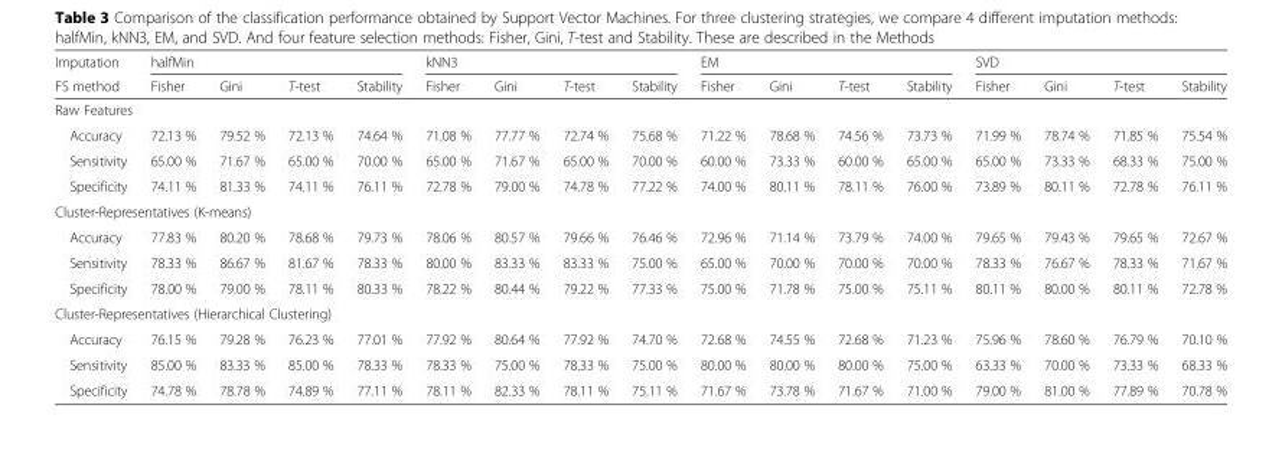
<table><thead><tr><td rowspan="2">Imputation FS method</td><td colspan="4">halfMin</td><td colspan="4">kNN3</td><td colspan="4">EM</td><td colspan="4">SVD</td></tr><tr><td>Fisher</td><td>Gini</td><td>T-test</td><td>Stability</td><td>Fisher</td><td>Gini</td><td>T-test</td><td>Stability</td><td>Fisher</td><td>Gini</td><td>T-test</td><td>Stability</td><td>Fisher</td><td>Gini</td><td>T-test</td><td>Stability</td></tr></thead><tbody><tr><td colspan="17">Raw Features</td></tr><tr><td>Accuracy</td><td>72.13 %</td><td>79.52 %</td><td>72.13 %</td><td>74.64 %</td><td>71.08 %</td><td>77.77 %</td><td>72.74 %</td><td>75.68 %</td><td>71.22 %</td><td>78.68 %</td><td>74.56 %</td><td>73.73 %</td><td>71.99 %</td><td>78.74 %</td><td>71.85 %</td><td>75.54 %</td></tr><tr><td>Sensitivity</td><td>65.00 %</td><td>71.67 %</td><td>65.00 %</td><td>70.00 %</td><td>65.00 %</td><td>71.67 %</td><td>65.00 %</td><td>70.00 %</td><td>60.00 %</td><td>73.33 %</td><td>60.00 %</td><td>65.00 %</td><td>65.00 %</td><td>73.33 %</td><td>68.33 %</td><td>75.00 %</td></tr><tr><td>Specificity</td><td>74.11 %</td><td>81.33 %</td><td>74.11 %</td><td>76.11 %</td><td>72.78 %</td><td>79.00 %</td><td>74.78 %</td><td>77.22 %</td><td>74.00 %</td><td>80.11 %</td><td>78.11 %</td><td>76.00 %</td><td>73.89 %</td><td>80.11 %</td><td>72.78 %</td><td>76.11 %</td></tr><tr><td colspan="17">Cluster-Representatives (K-means)</td></tr><tr><td>Accuracy</td><td>77.83 %</td><td>80.20 %</td><td>78.68 %</td><td>79.73 %</td><td>78.06 %</td><td>80.57 %</td><td>79.66 %</td><td>76.46 %</td><td>72.96 %</td><td>71.14 %</td><td>73.79 %</td><td>74.00 %</td><td>79.65 %</td><td>79.43 %</td><td>79.65 %</td><td>72.67 %</td></tr><tr><td>Sensitivity</td><td>78.33 %</td><td>86.67 %</td><td>81.67 %</td><td>78.33 %</td><td>80.00 %</td><td>83.33 %</td><td>83.33 %</td><td>75.00 %</td><td>65.00 %</td><td>70.00 %</td><td>70.00 %</td><td>70.00 %</td><td>78.33 %</td><td>76.67 %</td><td>78.33 %</td><td>71.67 %</td></tr><tr><td>Specificity</td><td>78.00 %</td><td>79.00 %</td><td>78.11 %</td><td>80.33 %</td><td>78.22 %</td><td>80.44 %</td><td>79.22 %</td><td>77.33 %</td><td>75.00 %</td><td>71.78 %</td><td>75.00 %</td><td>75.11 %</td><td>80.11 %</td><td>80.00 %</td><td>80.11 %</td><td>72.78 %</td></tr><tr><td colspan="17">Cluster-Representatives (Hierarchical Clustering)</td></tr><tr><td>Accuracy</td><td>76.15 %</td><td>79.28 %</td><td>76.23 %</td><td>77.01 %</td><td>77.92 %</td><td>80.64 %</td><td>77.92 %</td><td>74.70 %</td><td>72.68 %</td><td>74.55 %</td><td>72.68 %</td><td>71.23 %</td><td>75.96 %</td><td>78.60 %</td><td>76.79 %</td><td>70.10 %</td></tr><tr><td>Sensitivity</td><td>85.00 %</td><td>83.33 %</td><td>85.00 %</td><td>78.33 %</td><td>78.33 %</td><td>75.00 %</td><td>78.33 %</td><td>75.00 %</td><td>80.00 %</td><td>80.00 %</td><td>80.00 %</td><td>75.00 %</td><td>63.33 %</td><td>70.00 %</td><td>73.33 %</td><td>68.33 %</td></tr><tr><td>Specificity</td><td>74.78 %</td><td>78.78 %</td><td>74.89 %</td><td>77.11 %</td><td>78.11 %</td><td>82.33 %</td><td>78.11 %</td><td>75.11 %</td><td>71.67 %</td><td>73.78 %</td><td>71.67 %</td><td>71.00 %</td><td>79.00 %</td><td>81.00 %</td><td>77.89 %</td><td>70.78 %</td></tr></tbody></table>